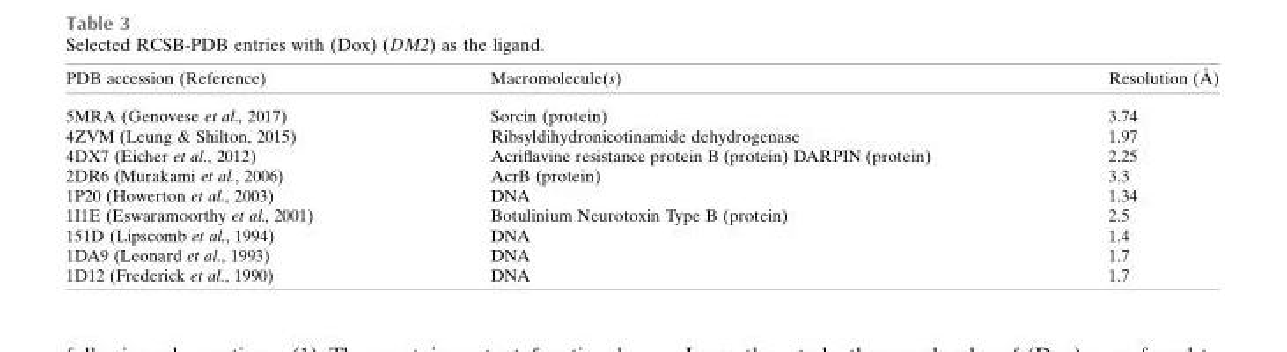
<table><thead><tr><td>PDB accession (Reference)</td><td>Macromolecule(s)</td><td>Resolution (A˚ )</td></tr></thead><tbody><tr><td>5MRA (Genovese et al., 2017)</td><td>Sorcin (protein)</td><td>3.74</td></tr><tr><td>4ZVM (Leung &amp; Shilton, 2015)</td><td>Ribsyldihydronicotinamide dehydrogenase</td><td>1.97</td></tr><tr><td>4DX7 (Eicher et al., 2012)</td><td>Acriflavine resistance protein B (protein) DARPIN (protein)</td><td>2.25</td></tr><tr><td>2DR6 (Murakami et al., 2006)</td><td>AcrB (protein)</td><td>3.3</td></tr><tr><td>1P20 (Howerton et al., 2003)</td><td>DNA</td><td>1.34</td></tr><tr><td>1I1E (Eswaramoorthy et al., 2001)</td><td>Botulinium Neurotoxin Type B (protein)</td><td>2.5</td></tr><tr><td>151D (Lipscomb et al., 1994)</td><td>DNA</td><td>1.4</td></tr><tr><td>1DA9 (Leonard et al., 1993)</td><td>DNA</td><td>1.7</td></tr><tr><td>1D12 (Frederick et al., 1990)</td><td>DNA</td><td>1.7</td></tr></tbody></table>